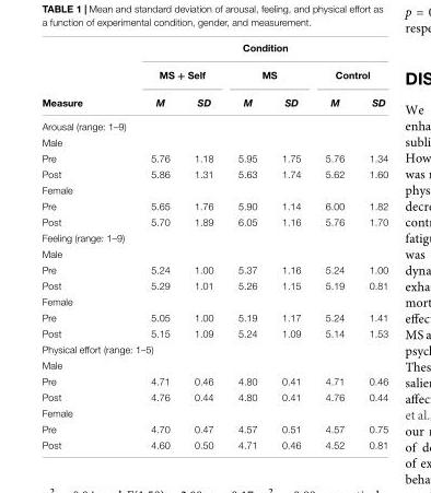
<table><thead><tr><td rowspan="3">Measure</td><td colspan="6">Condition</td></tr><tr><td colspan="2">MS + Self</td><td colspan="2">MS</td><td colspan="2">Control</td></tr><tr><td>M</td><td>SD</td><td>M</td><td>SD</td><td>M</td><td>SD</td></tr></thead><tbody><tr><td colspan="7">Arousal (range: 1–9)</td></tr><tr><td colspan="7">Male</td></tr><tr><td>Pre</td><td>5.76</td><td>1.18</td><td>5.95</td><td>1.75</td><td>5.76</td><td>1.34</td></tr><tr><td>Post</td><td>5.86</td><td>1.31</td><td>5.63</td><td>1.74</td><td>5.62</td><td>1.60</td></tr><tr><td colspan="7">Female</td></tr><tr><td>Pre</td><td>5.65</td><td>1.76</td><td>5.90</td><td>1.14</td><td>6.00</td><td>1.82</td></tr><tr><td>Post</td><td>5.70</td><td>1.89</td><td>6.05</td><td>1.16</td><td>5.76</td><td>1.70</td></tr><tr><td colspan="7">Feeling (range: 1–9)</td></tr><tr><td colspan="7">Male</td></tr><tr><td>Pre</td><td>5.24</td><td>1.00</td><td>5.37</td><td>1.16</td><td>5.24</td><td>1.00</td></tr><tr><td>Post</td><td>5.29</td><td>1.01</td><td>5.26</td><td>1.15</td><td>5.19</td><td>0.81</td></tr><tr><td colspan="7">Female</td></tr><tr><td>Pre</td><td>5.05</td><td>1.00</td><td>5.19</td><td>1.17</td><td>5.24</td><td>1.41</td></tr><tr><td>Post</td><td>5.15</td><td>1.09</td><td>5.24</td><td>1.09</td><td>5.14</td><td>1.53</td></tr><tr><td colspan="7">Physical effort (range: 1–5)</td></tr><tr><td colspan="7">Male</td></tr><tr><td>Pre</td><td>4.71</td><td>0.46</td><td>4.80</td><td>0.41</td><td>4.71</td><td>0.46</td></tr><tr><td>Post</td><td>4.76</td><td>0.44</td><td>4.80</td><td>0.41</td><td>4.76</td><td>0.44</td></tr><tr><td colspan="7">Female</td></tr><tr><td>Pre</td><td>4.70</td><td>0.47</td><td>4.57</td><td>0.51</td><td>4.57</td><td>0.75</td></tr><tr><td>Post</td><td>4.60</td><td>0.50</td><td>4.71</td><td>0.46</td><td>4.52</td><td>0.81</td></tr></tbody></table>